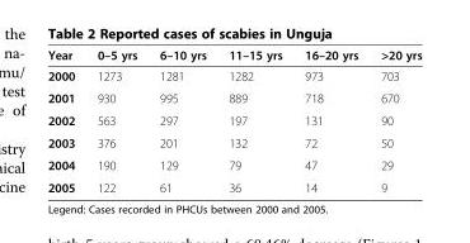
<table><thead><tr><td>Year</td><td>0–5 yrs</td><td>6–10 yrs</td><td>11–15 yrs</td><td>16–20 yrs</td><td>&gt;20 yrs</td></tr></thead><tbody><tr><td>2000</td><td>1273</td><td>1281</td><td>1282</td><td>973</td><td>703</td></tr><tr><td>2001</td><td>930</td><td>995</td><td>889</td><td>718</td><td>670</td></tr><tr><td>2002</td><td>563</td><td>297</td><td>197</td><td>131</td><td>90</td></tr><tr><td>2003</td><td>376</td><td>201</td><td>132</td><td>72</td><td>50</td></tr><tr><td>2004</td><td>190</td><td>129</td><td>79</td><td>47</td><td>29</td></tr><tr><td>2005</td><td>122</td><td>61</td><td>36</td><td>14</td><td>9</td></tr></tbody></table>